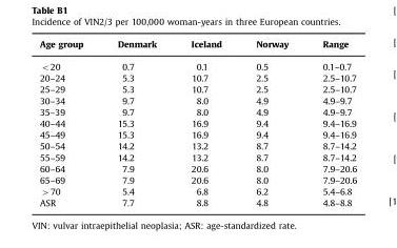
<table><thead><tr><td>Age group</td><td>Denmark</td><td>Iceland</td><td>Norway</td><td>Range</td></tr></thead><tbody><tr><td>&lt;20</td><td>0.7</td><td>0.1</td><td>0.5</td><td>0.1–0.7</td></tr><tr><td>20–24</td><td>5.3</td><td>10.7</td><td>2.5</td><td>2.5–10.7</td></tr><tr><td>25–29</td><td>5.3</td><td>10.7</td><td>2.5</td><td>2.5–10.7</td></tr><tr><td>30–34</td><td>9.7</td><td>8.0</td><td>4.9</td><td>4.9–9.7</td></tr><tr><td>35–39</td><td>9.7</td><td>8.0</td><td>4.9</td><td>4.9–9.7</td></tr><tr><td>40–44</td><td>15.3</td><td>16.9</td><td>9.4</td><td>9.4–16.9</td></tr><tr><td>45–49</td><td>15.3</td><td>16.9</td><td>9.4</td><td>9.4–16.9</td></tr><tr><td>50–54</td><td>14.2</td><td>13.2</td><td>8.7</td><td>8.7–14.2</td></tr><tr><td>55–59</td><td>14.2</td><td>13.2</td><td>8.7</td><td>8.7–14.2</td></tr><tr><td>60–64</td><td>7.9</td><td>20.6</td><td>8.0</td><td>7.9–20.6</td></tr><tr><td>65–69</td><td>7.9</td><td>20.6</td><td>8.0</td><td>7.9–20.6</td></tr><tr><td>&gt;70</td><td>5.4</td><td>6.8</td><td>6.2</td><td>5.4–6.8</td></tr><tr><td>ASR</td><td>7.7</td><td>8.8</td><td>4.8</td><td>4.8–8.8</td></tr></tbody></table>